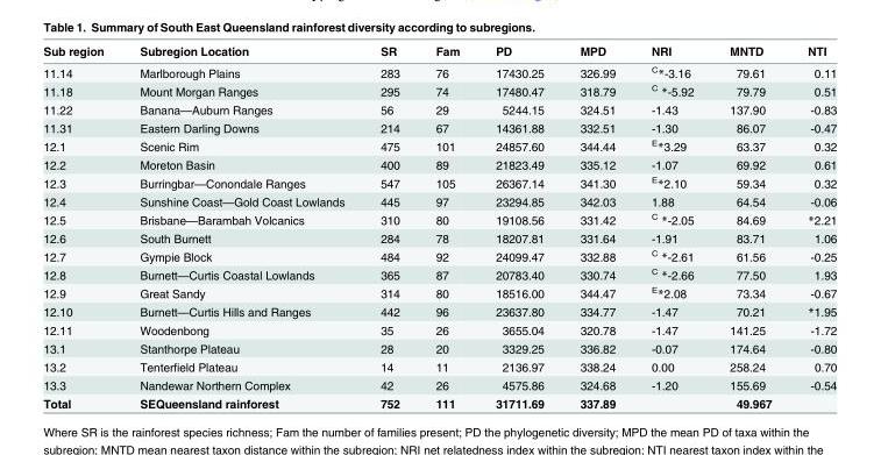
<table><thead><tr><td>Sub region</td><td>Subregion Location</td><td>SR</td><td>Fam</td><td>PD</td><td>MPD</td><td>NRI</td><td>MNTD</td><td>NTI</td></tr></thead><tbody><tr><td>11.14</td><td>Marlborough Plains</td><td>283</td><td>76</td><td>17430.25</td><td>326.99</td><td><sup>C</sup>*-3.16</td><td>79.61</td><td>0.11</td></tr><tr><td>11.18</td><td>Mount Morgan Ranges</td><td>295</td><td>74</td><td>17480.47</td><td>318.79</td><td><sup>C</sup> *-5.92</td><td>79.79</td><td>0.51</td></tr><tr><td>11.22</td><td>Banana—Auburn Ranges</td><td>56</td><td>29</td><td>5244.15</td><td>324.51</td><td>-1.43</td><td>137.90</td><td>-0.83</td></tr><tr><td>11.31</td><td>Eastern Darling Downs</td><td>214</td><td>67</td><td>14361.88</td><td>332.51</td><td>-1.30</td><td>86.07</td><td>-0.47</td></tr><tr><td>12.1</td><td>Scenic Rim</td><td>475</td><td>101</td><td>24857.60</td><td>344.44</td><td><sup>E</sup>*3.29</td><td>63.37</td><td>0.32</td></tr><tr><td>12.2</td><td>Moreton Basin</td><td>400</td><td>89</td><td>21823.49</td><td>335.12</td><td>-1.07</td><td>69.92</td><td>0.61</td></tr><tr><td>12.3</td><td>Burringbar—Conondale Ranges</td><td>547</td><td>105</td><td>26367.14</td><td>341.30</td><td><sup>E</sup>*2.10</td><td>59.34</td><td>0.32</td></tr><tr><td>12.4</td><td>Sunshine Coast—Gold Coast Lowlands</td><td>445</td><td>97</td><td>23294.85</td><td>342.03</td><td>1.88</td><td>64.54</td><td>-0.06</td></tr><tr><td>12.5</td><td>Brisbane—Barambah Volcanics</td><td>310</td><td>80</td><td>19108.56</td><td>331.42</td><td><sup>C</sup> *-2.05</td><td>84.69</td><td>*2.21</td></tr><tr><td>12.6</td><td>South Burnett</td><td>284</td><td>78</td><td>18207.81</td><td>331.64</td><td>-1.91</td><td>83.71</td><td>1.06</td></tr><tr><td>12.7</td><td>Gympie Block</td><td>484</td><td>92</td><td>24099.47</td><td>332.88</td><td><sup>C</sup> *-2.61</td><td>61.56</td><td>-0.25</td></tr><tr><td>12.8</td><td>Burnett—Curtis Coastal Lowlands</td><td>365</td><td>87</td><td>20783.40</td><td>330.74</td><td><sup>C</sup> *-2.66</td><td>77.50</td><td>1.93</td></tr><tr><td>12.9</td><td>Great Sandy</td><td>314</td><td>80</td><td>18516.00</td><td>344.47</td><td><sup>E</sup>*2.08</td><td>73.34</td><td>-0.67</td></tr><tr><td>12.10</td><td>Burnett—Curtis Hills and Ranges</td><td>442</td><td>96</td><td>23637.80</td><td>334.77</td><td>-1.47</td><td>70.21</td><td>*1.95</td></tr><tr><td>12.11</td><td>Woodenbong</td><td>35</td><td>26</td><td>3655.04</td><td>320.78</td><td>-1.47</td><td>141.25</td><td>-1.72</td></tr><tr><td>13.1</td><td>Stanthorpe Plateau</td><td>28</td><td>20</td><td>3329.25</td><td>336.82</td><td>-0.07</td><td>174.64</td><td>-0.80</td></tr><tr><td>13.2</td><td>Tenterfield Plateau</td><td>14</td><td>11</td><td>2136.97</td><td>338.24</td><td>0.00</td><td>258.24</td><td>0.70</td></tr><tr><td>13.3</td><td>Nandewar Northern Complex</td><td>42</td><td>26</td><td>4575.86</td><td>324.68</td><td>-1.20</td><td>155.69</td><td>-0.54</td></tr><tr><td>Total</td><td>SEQueensland rainforest</td><td>752</td><td>111</td><td>31711.69</td><td>337.89</td><td></td><td>49.967</td><td></td></tr></tbody></table>